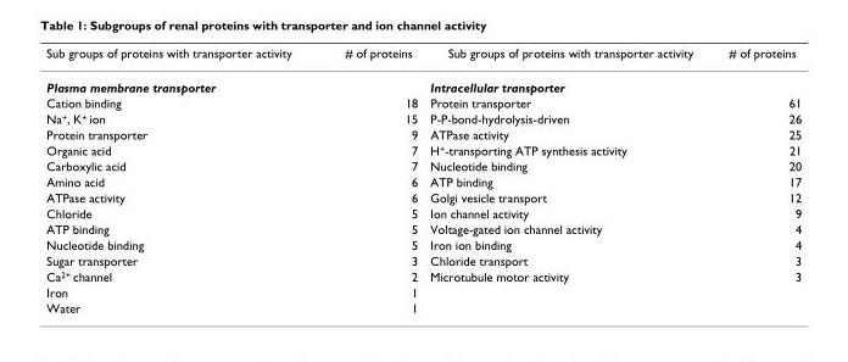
<table><thead><tr><td>Sub groups of proteins with transporter activity</td><td># of proteins</td><td>Sub groups of proteins with transporter activity</td><td># of proteins</td></tr></thead><tbody><tr><td colspan="2">Plasma membrane transporter</td><td colspan="2">Intracellular transporter</td></tr><tr><td>Cation binding</td><td>18</td><td>Protein transporter</td><td>61</td></tr><tr><td>Na<sup>+</sup>, K<sup>+</sup> ion</td><td>15</td><td>P-P-bond-hydrolysis-driven</td><td>26</td></tr><tr><td>Protein transporter</td><td>9</td><td>ATPase activity</td><td>25</td></tr><tr><td>Organic acid</td><td>7</td><td>H<sup>+</sup>-transporting ATP synthesis activity</td><td>21</td></tr><tr><td>Carboxylic acid</td><td>7</td><td>Nucleotide binding</td><td>20</td></tr><tr><td>Amino acid</td><td>6</td><td>ATP binding</td><td>17</td></tr><tr><td>ATPase activity</td><td>6</td><td>Golgi vesicle transport</td><td>12</td></tr><tr><td>Chloride</td><td>5</td><td>Ion channel activity</td><td>9</td></tr><tr><td>ATP binding</td><td>5</td><td>Voltage-gated ion channel activity</td><td>4</td></tr><tr><td>Nucleotide binding</td><td>5</td><td>Iron ion binding</td><td>4</td></tr><tr><td>Sugar transporter</td><td>3</td><td>Chloride transport</td><td>3</td></tr><tr><td>Ca<sup>2+</sup> channel</td><td>2</td><td>Microtubule motor activity</td><td>3</td></tr><tr><td>Iron</td><td>1</td><td></td><td></td></tr><tr><td>Water</td><td>1</td><td></td><td></td></tr></tbody></table>